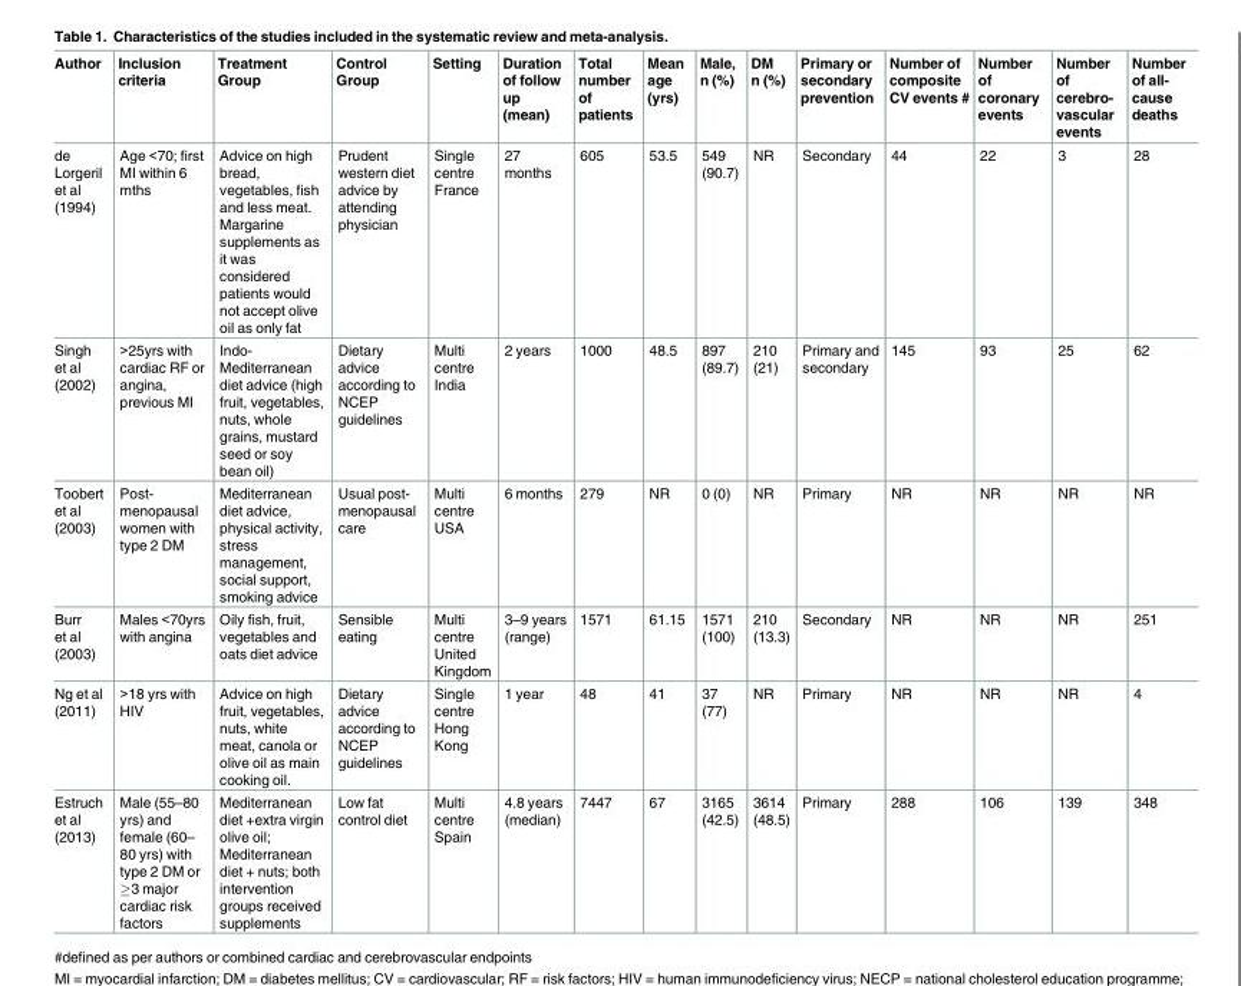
<table><thead><tr><td>Author</td><td>Inclusion criteria</td><td>Treatment Group</td><td>Control Group</td><td>Setting</td><td>Duration of follow up (mean)</td><td>Total number of patients</td><td>Mean age (yrs)</td><td>Male, n (%)</td><td>DM n (%)</td><td>Primary or secondary prevention</td><td>Number of composite CV events #</td><td>Number of coronary events</td><td>Number of cerebro- vascular events</td><td>Number of all- cause deaths</td></tr></thead><tbody><tr><td>de Lorgeril et al (1994)</td><td>Age &lt;70; first MI within 6 mths</td><td>Advice on high bread, vegetables, fish and less meat. Margarine supplements as it was considered patients would not accept olive oil as only fat</td><td>Prudent western diet advice by attending physician</td><td>Single centre France</td><td>27 months</td><td>605</td><td>53.5</td><td>549 (90.7)</td><td>NR</td><td>Secondary</td><td>44</td><td>22</td><td>3</td><td>28</td></tr><tr><td>Singh et al (2002)</td><td>&gt;25yrs with cardiac RF or angina, previous MI</td><td>Indo- Mediterranean diet advice (high fruit, vegetables, nuts, whole grains, mustard seed or soy bean oil)</td><td>Dietary advice according to NCEP guidelines</td><td>Multi centre India</td><td>2 years</td><td>1000</td><td>48.5</td><td>897 (89.7)</td><td>210 (21)</td><td>Primary and secondary</td><td>145</td><td>93</td><td>25</td><td>62</td></tr><tr><td>Toobert et al (2003)</td><td>Post- menopausal women with type 2 DM</td><td>Mediterranean diet advice, physical activity, stress management, social support, smoking advice</td><td>Usual post- menopausal care</td><td>Multi centre USA</td><td>6 months</td><td>279</td><td>NR</td><td>0 (0)</td><td>NR</td><td>Primary</td><td>NR</td><td>NR</td><td>NR</td><td>NR</td></tr><tr><td>Burr et al (2003)</td><td>Males &lt;70yrs with angina</td><td>Oily fish, fruit, vegetables and oats diet advice</td><td>Sensible eating</td><td>Multi centre United Kingdom</td><td>3–9 years (range)</td><td>1571</td><td>61.15</td><td>1571 (100)</td><td>210 (13.3)</td><td>Secondary</td><td>NR</td><td>NR</td><td>NR</td><td>251</td></tr><tr><td>Ng et al (2011)</td><td>&gt;18 yrs with HIV</td><td>Advice on high fruit, vegetables, nuts, white meat, canola or olive oil as main cooking oil.</td><td>Dietary advice according to NCEP guidelines</td><td>Single centre Hong Kong</td><td>1 year</td><td>48</td><td>41</td><td>37 (77)</td><td>NR</td><td>Primary</td><td>NR</td><td>NR</td><td>NR</td><td>4</td></tr><tr><td>Estruch et al (2013)</td><td>Male (55–80 yrs) and female (60– 80 yrs) with type 2 DM or ≥3 major cardiac risk factors</td><td>Mediterranean diet +extra virgin olive oil; Mediterranean diet + nuts; both intervention groups received supplements</td><td>Low fat control diet</td><td>Multi centre Spain</td><td>4.8 years (median)</td><td>7447</td><td>67</td><td>3165 (42.5)</td><td>3614 (48.5)</td><td>Primary</td><td>288</td><td>106</td><td>139</td><td>348</td></tr></tbody></table>